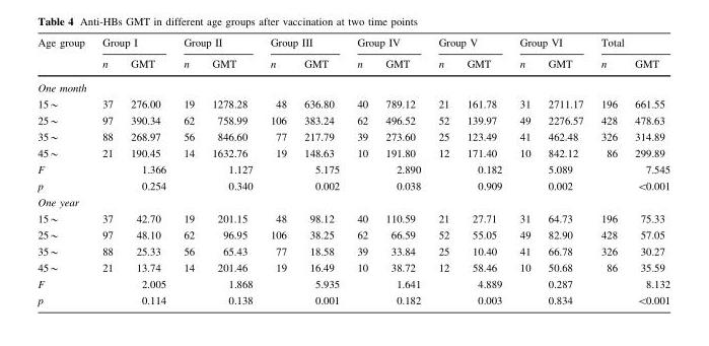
<table><thead><tr><td rowspan="2">Age group</td><td colspan="2">Group I</td><td colspan="2">Group II</td><td colspan="2">Group III</td><td colspan="2">Group IV</td><td colspan="2">Group V</td><td colspan="2">Group VI</td><td colspan="2">Total</td></tr><tr><td>n</td><td>GMT</td><td>n</td><td>GMT</td><td>n</td><td>GMT</td><td>n</td><td>GMT</td><td>n</td><td>GMT</td><td>n</td><td>GMT</td><td>n</td><td>GMT</td></tr></thead><tbody><tr><td colspan="15">One month</td></tr><tr><td>15*</td><td>37</td><td>276.00</td><td>19</td><td>1278.28</td><td>48</td><td>636.80</td><td>40</td><td>789.12</td><td>21</td><td>161.78</td><td>31</td><td>2711.17</td><td>196</td><td>661.55</td></tr><tr><td>25*</td><td>97</td><td>390.34</td><td>62</td><td>758.99</td><td>106</td><td>383.24</td><td>62</td><td>496.52</td><td>52</td><td>139.97</td><td>49</td><td>2276.57</td><td>428</td><td>478.63</td></tr><tr><td>35*</td><td>88</td><td>268.97</td><td>56</td><td>846.60</td><td>77</td><td>217.79</td><td>39</td><td>273.60</td><td>25</td><td>123.49</td><td>41</td><td>462.48</td><td>326</td><td>314.89</td></tr><tr><td>45*</td><td>21</td><td>190.45</td><td>14</td><td>1632.76</td><td>19</td><td>148.63</td><td>10</td><td>191.80</td><td>12</td><td>171.40</td><td>10</td><td>842.12</td><td>86</td><td>299.89</td></tr><tr><td>F</td><td></td><td>1.366</td><td></td><td>1.127</td><td></td><td>5.175</td><td></td><td>2.890</td><td></td><td>0.182</td><td></td><td>5.089</td><td></td><td>7.545</td></tr><tr><td>p</td><td></td><td>0.254</td><td></td><td>0.340</td><td></td><td>0.002</td><td></td><td>0.038</td><td></td><td>0.909</td><td></td><td>0.002</td><td></td><td>&lt;0.001</td></tr><tr><td colspan="15">One year</td></tr><tr><td>15*</td><td>37</td><td>42.70</td><td>19</td><td>201.15</td><td>48</td><td>98.12</td><td>40</td><td>110.59</td><td>21</td><td>27.71</td><td>31</td><td>64.73</td><td>196</td><td>75.33</td></tr><tr><td>25*</td><td>97</td><td>48.10</td><td>62</td><td>96.95</td><td>106</td><td>38.25</td><td>62</td><td>66.59</td><td>52</td><td>55.05</td><td>49</td><td>82.90</td><td>428</td><td>57.05</td></tr><tr><td>35*</td><td>88</td><td>25.33</td><td>56</td><td>65.43</td><td>77</td><td>18.58</td><td>39</td><td>33.84</td><td>25</td><td>10.40</td><td>41</td><td>66.78</td><td>326</td><td>30.27</td></tr><tr><td>45*</td><td>21</td><td>13.74</td><td>14</td><td>201.46</td><td>19</td><td>16.49</td><td>10</td><td>38.72</td><td>12</td><td>58.46</td><td>10</td><td>50.68</td><td>86</td><td>35.59</td></tr><tr><td>F</td><td></td><td>2.005</td><td></td><td>1.868</td><td></td><td>5.935</td><td></td><td>1.641</td><td></td><td>4.889</td><td></td><td>0.287</td><td></td><td>8.132</td></tr><tr><td>p</td><td></td><td>0.114</td><td></td><td>0.138</td><td></td><td>0.001</td><td></td><td>0.182</td><td></td><td>0.003</td><td></td><td>0.834</td><td></td><td>&lt;0.001</td></tr></tbody></table>